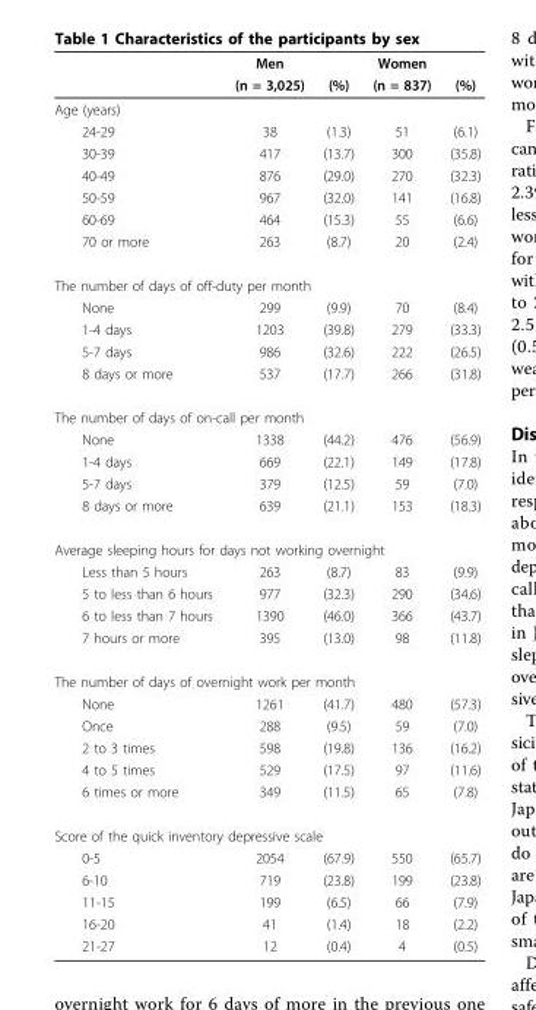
<table><thead><tr><td rowspan="2"></td><td rowspan="2">Men (n = 3,025)</td><td rowspan="2">(%)</td><td rowspan="2">Women (n = 837)</td><td rowspan="2">(%)</td></tr><tr></tr></thead><tbody><tr><td colspan="5">Age (years)</td></tr><tr><td>24-29</td><td>38</td><td>(1.3)</td><td>51</td><td>(6.1)</td></tr><tr><td>30-39</td><td>417</td><td>(13.7)</td><td>300</td><td>(35.8)</td></tr><tr><td>40-49</td><td>876</td><td>(29.0)</td><td>270</td><td>(32.3)</td></tr><tr><td>50-59</td><td>967</td><td>(32.0)</td><td>141</td><td>(16.8)</td></tr><tr><td>60-69</td><td>464</td><td>(15.3)</td><td>55</td><td>(6.6)</td></tr><tr><td>70 or more</td><td>263</td><td>(8.7)</td><td>20</td><td>(2.4)</td></tr><tr><td colspan="5">The number of days of off-duty per month</td></tr><tr><td>None</td><td>299</td><td>(9.9)</td><td>70</td><td>(8.4)</td></tr><tr><td>1-4 days</td><td>1203</td><td>(39.8)</td><td>279</td><td>(33.3)</td></tr><tr><td>5-7 days</td><td>986</td><td>(32.6)</td><td>222</td><td>(26.5)</td></tr><tr><td>8 days or more</td><td>537</td><td>(17.7)</td><td>266</td><td>(31.8)</td></tr><tr><td colspan="5">The number of days of on-call per month</td></tr><tr><td>None</td><td>1338</td><td>(44.2)</td><td>476</td><td>(56.9)</td></tr><tr><td>1-4 days</td><td>669</td><td>(22.1)</td><td>149</td><td>(17.8)</td></tr><tr><td>5-7 days</td><td>379</td><td>(12.5)</td><td>59</td><td>(7.0)</td></tr><tr><td>8 days or more</td><td>639</td><td>(21.1)</td><td>153</td><td>(18.3)</td></tr><tr><td colspan="5">Average sleeping hours for days not working overnight</td></tr><tr><td>Less than 5 hours</td><td>263</td><td>(8.7)</td><td>83</td><td>(9.9)</td></tr><tr><td>5 to less than 6 hours</td><td>977</td><td>(32.3)</td><td>290</td><td>(34.6)</td></tr><tr><td>6 to less than 7 hours</td><td>1390</td><td>(46.0)</td><td>366</td><td>(43.7)</td></tr><tr><td>7 hours or more</td><td>395</td><td>(13.0)</td><td>98</td><td>(11.8)</td></tr><tr><td colspan="5">The number of days of overnight work per month</td></tr><tr><td>None</td><td>1261</td><td>(41.7)</td><td>480</td><td>(57.3)</td></tr><tr><td>Once</td><td>288</td><td>(9.5)</td><td>59</td><td>(7.0)</td></tr><tr><td>2 to 3 times</td><td>598</td><td>(19.8)</td><td>136</td><td>(16.2)</td></tr><tr><td>4 to 5 times</td><td>529</td><td>(17.5)</td><td>97</td><td>(11.6)</td></tr><tr><td>6 times or more</td><td>349</td><td>(11.5)</td><td>65</td><td>(7.8)</td></tr><tr><td colspan="5">Score of the quick inventory depressive scale</td></tr><tr><td>0-5</td><td>2054</td><td>(67.9)</td><td>550</td><td>(65.7)</td></tr><tr><td>6-10</td><td>719</td><td>(23.8)</td><td>199</td><td>(23.8)</td></tr><tr><td>11-15</td><td>199</td><td>(6.5)</td><td>66</td><td>(7.9)</td></tr><tr><td>16-20</td><td>41</td><td>(1.4)</td><td>18</td><td>(2.2)</td></tr><tr><td>21-27</td><td>12</td><td>(0.4)</td><td>4</td><td>(0.5)</td></tr></tbody></table>